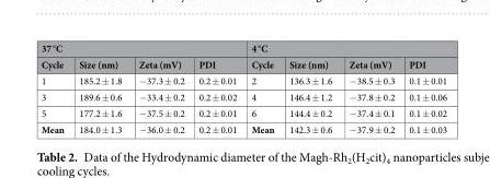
<table><thead><tr><td colspan="4">37 °C</td><td colspan="4">4 °C</td></tr><tr><td>Cycle</td><td>Size (nm)</td><td>Zeta (mV)</td><td>PDI</td><td>Cycle</td><td>Size (nm)</td><td>Zeta (mV)</td><td>PDI</td></tr></thead><tbody><tr><td>1</td><td>185.2 ± 1.8</td><td>−37.3 ± 0.2</td><td>0.2 ± 0.01</td><td>2</td><td>136.3 ± 1.6</td><td>−38.5 ± 0.3</td><td>0.1 ± 0.01</td></tr><tr><td>3</td><td>189.6 ± 0.6</td><td>−33.4 ± 0.2</td><td>0.2 ± 0.02</td><td>4</td><td>146.4 ± 1.2</td><td>−37.8 ± 0.2</td><td>0.1 ± 0.06</td></tr><tr><td>5</td><td>177.2 ± 1.6</td><td>−37.5 ± 0.2</td><td>0.2 ± 0.01</td><td>6</td><td>144.4 ± 0.2</td><td>−37.4 ± 0.1</td><td>0.1 ± 0.02</td></tr><tr><td>Mean</td><td>184.0 ± 1.3</td><td>−36.0 ± 0.2</td><td>0.2 ± 0.01</td><td>Mean</td><td>142.3 ± 0.6</td><td>−37.9 ± 0.2</td><td>0.1 ± 0.03</td></tr></tbody></table>